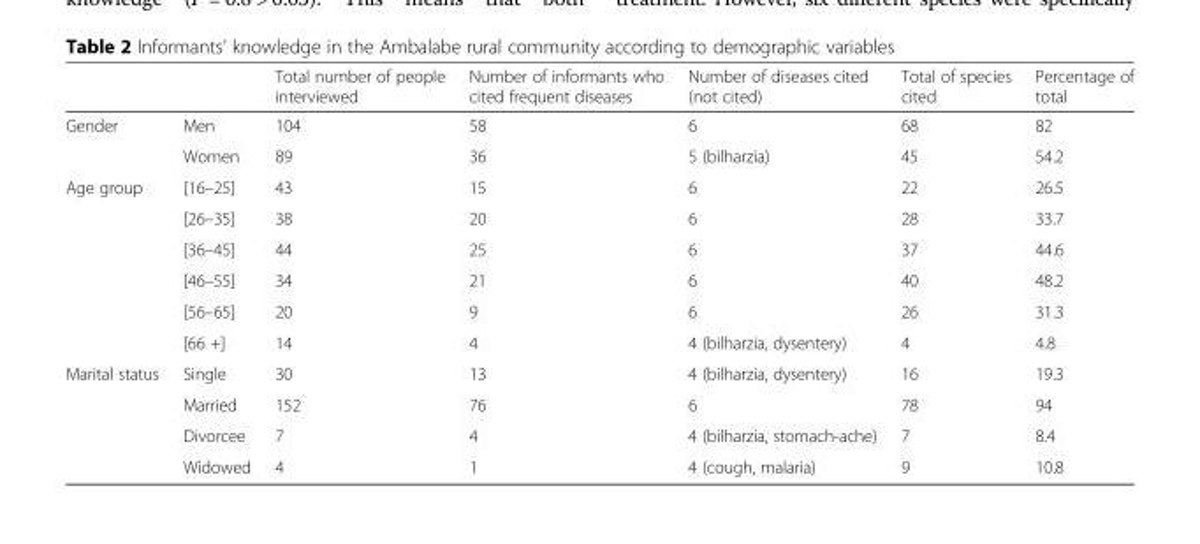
<table><thead><tr><td></td><td></td><td>Total number of people interviewed</td><td>Number of informants who cited frequent diseases</td><td>Number of diseases cited (not cited)</td><td>Total of species cited</td><td>Percentage of total</td></tr></thead><tbody><tr><td rowspan="2">Gender</td><td>Men</td><td>104</td><td>58</td><td>6</td><td>68</td><td>82</td></tr><tr><td>Women</td><td>89</td><td>36</td><td>5 (bilharzia)</td><td>45</td><td>54.2</td></tr><tr><td rowspan="6">Age group</td><td>[16–25]</td><td>43</td><td>15</td><td>6</td><td>22</td><td>26.5</td></tr><tr><td>[26–35]</td><td>38</td><td>20</td><td>6</td><td>28</td><td>33.7</td></tr><tr><td>[36–45]</td><td>44</td><td>25</td><td>6</td><td>37</td><td>44.6</td></tr><tr><td>[46–55]</td><td>34</td><td>21</td><td>6</td><td>40</td><td>48.2</td></tr><tr><td>[56–65]</td><td>20</td><td>9</td><td>6</td><td>26</td><td>31.3</td></tr><tr><td>[66 +]</td><td>14</td><td>4</td><td>4 (bilharzia, dysentery)</td><td>4</td><td>4.8</td></tr><tr><td rowspan="4">Marital status</td><td>Single</td><td>30</td><td>13</td><td>4 (bilharzia, dysentery)</td><td>16</td><td>19.3</td></tr><tr><td>Married</td><td>152</td><td>76</td><td>6</td><td>78</td><td>94</td></tr><tr><td>Divorcee</td><td>7</td><td>4</td><td>4 (bilharzia, stomach-ache)</td><td>7</td><td>8.4</td></tr><tr><td>Widowed</td><td>4</td><td>1</td><td>4 (cough, malaria)</td><td>9</td><td>10.8</td></tr></tbody></table>